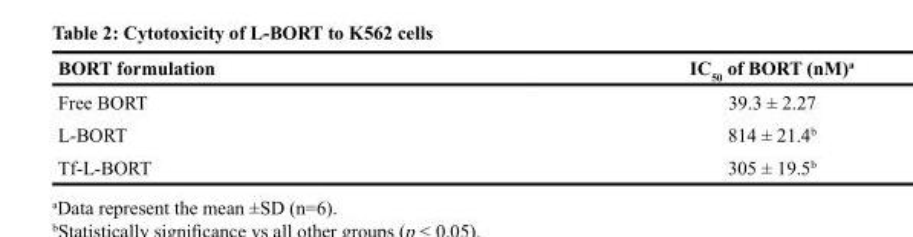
<table><thead><tr><td>BORT formulation</td><td>IC<sub>50</sub> of BORT (nM)<sup>a</sup></td></tr></thead><tbody><tr><td>Free BORT</td><td>39.3 ± 2.27</td></tr><tr><td>L-BORT</td><td>814 ± 21.4<sup>b</sup></td></tr><tr><td>Tf-L-BORT</td><td>305 ± 19.5<sup>b</sup></td></tr></tbody></table>